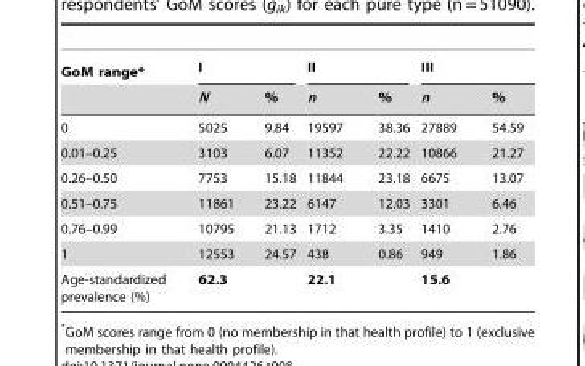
<table><thead><tr><td rowspan="2">GoM range*</td><td colspan="2">I</td><td colspan="2">II</td><td colspan="2">III</td></tr><tr><td>N</td><td>%</td><td>n</td><td>%</td><td>n</td><td>%</td></tr></thead><tbody><tr><td>0</td><td>5025</td><td>9.84</td><td>19597</td><td>38.36</td><td>27889</td><td>54.59</td></tr><tr><td>0.01–0.25</td><td>3103</td><td>6.07</td><td>11352</td><td>22.22</td><td>10866</td><td>21.27</td></tr><tr><td>0.26–0.50</td><td>7753</td><td>15.18</td><td>11844</td><td>23.18</td><td>6675</td><td>13.07</td></tr><tr><td>0.51–0.75</td><td>11861</td><td>23.22</td><td>6147</td><td>12.03</td><td>3301</td><td>6.46</td></tr><tr><td>0.76–0.99</td><td>10795</td><td>21.13</td><td>1712</td><td>3.35</td><td>1410</td><td>2.76</td></tr><tr><td>1</td><td>12553</td><td>24.57</td><td>438</td><td>0.86</td><td>949</td><td>1.86</td></tr><tr><td>Age-standardized prevalence (%)</td><td colspan="2">62.3</td><td colspan="2">22.1</td><td colspan="2">15.6</td></tr></tbody></table>